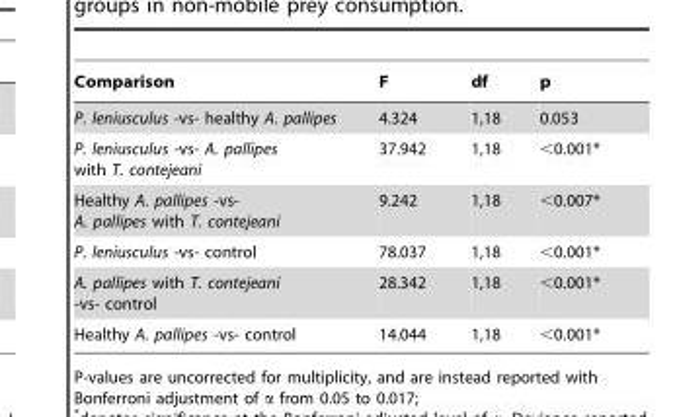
<table><thead><tr><td>Comparison</td><td>F</td><td>df</td><td>p</td></tr></thead><tbody><tr><td>P. leniusculus -vs- healthy A. pallipes</td><td>4.324</td><td>1,18</td><td>0.053</td></tr><tr><td>P. leniusculus -vs- A. pallipes with T. contejeani</td><td>37.942</td><td>1,18</td><td>&lt;0.001*</td></tr><tr><td>Healthy A. pallipes -vs- A. pallipes with T. contejeani</td><td>9.242</td><td>1,18</td><td>&lt;0.007*</td></tr><tr><td>P. leniusculus -vs- control</td><td>78.037</td><td>1,18</td><td>&lt;0.001*</td></tr><tr><td>A. pallipes with T. contejeani -vs- control</td><td>28.342</td><td>1,18</td><td>&lt;0.001*</td></tr><tr><td>Healthy A. pallipes -vs- control</td><td>14.044</td><td>1,18</td><td>&lt;0.001*</td></tr></tbody></table>